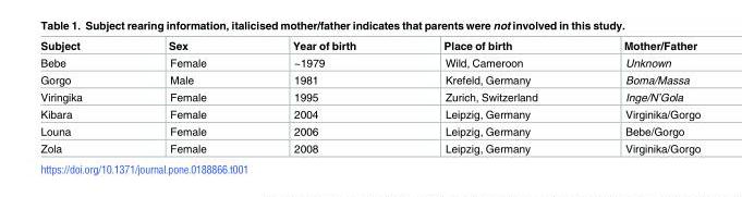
<table><thead><tr><td>Subject</td><td>Sex</td><td>Year of birth</td><td>Place of birth</td><td>Mother/Father</td></tr></thead><tbody><tr><td>Bebe</td><td>Female</td><td>~1979</td><td>Wild, Cameroon</td><td>Unknown</td></tr><tr><td>Gorgo</td><td>Male</td><td>1981</td><td>Krefeld, Germany</td><td>Boma/Massa</td></tr><tr><td>Viringika</td><td>Female</td><td>1995</td><td>Zurich, Switzerland</td><td>Inge/N’Gola</td></tr><tr><td>Kibara</td><td>Female</td><td>2004</td><td>Leipzig, Germany</td><td>Virginika/Gorgo</td></tr><tr><td>Louna</td><td>Female</td><td>2006</td><td>Leipzig, Germany</td><td>Bebe/Gorgo</td></tr><tr><td>Zola</td><td>Female</td><td>2008</td><td>Leipzig, Germany</td><td>Virginika/Gorgo</td></tr></tbody></table>